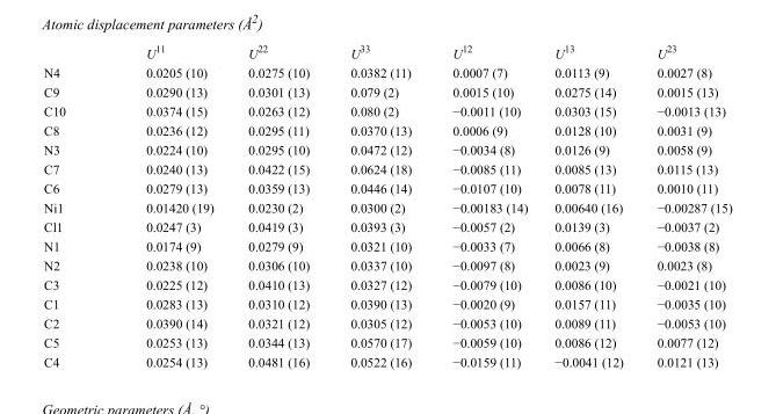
<table><thead><tr><td></td><td>U<sup>11</sup></td><td>U<sup>22</sup></td><td>U<sup>33</sup></td><td>U<sup>12</sup></td><td>U<sup>13</sup></td><td>U<sup>23</sup></td></tr></thead><tbody><tr><td>N4</td><td>0.0205 (10)</td><td>0.0275 (10)</td><td>0.0382 (11)</td><td>0.0007 (7)</td><td>0.0113 (9)</td><td>0.0027 (8)</td></tr><tr><td>C9</td><td>0.0290 (13)</td><td>0.0301 (13)</td><td>0.079 (2)</td><td>0.0015 (10)</td><td>0.0275 (14)</td><td>0.0015 (13)</td></tr><tr><td>C10</td><td>0.0374 (15)</td><td>0.0263 (12)</td><td>0.080 (2)</td><td>−0.0011 (10)</td><td>0.0303 (15)</td><td>−0.0013 (13)</td></tr><tr><td>C8</td><td>0.0236 (12)</td><td>0.0295 (11)</td><td>0.0370 (13)</td><td>0.0006 (9)</td><td>0.0128 (10)</td><td>0.0031 (9)</td></tr><tr><td>N3</td><td>0.0224 (10)</td><td>0.0295 (10)</td><td>0.0472 (12)</td><td>−0.0034 (8)</td><td>0.0126 (9)</td><td>0.0058 (9)</td></tr><tr><td>C7</td><td>0.0240 (13)</td><td>0.0422 (15)</td><td>0.0624 (18)</td><td>−0.0085 (11)</td><td>0.0085 (13)</td><td>0.0115 (13)</td></tr><tr><td>C6</td><td>0.0279 (13)</td><td>0.0359 (13)</td><td>0.0446 (14)</td><td>−0.0107 (10)</td><td>0.0078 (11)</td><td>0.0010 (11)</td></tr><tr><td>Ni1</td><td>0.01420 (19)</td><td>0.0230 (2)</td><td>0.0300 (2)</td><td>−0.00183 (14)</td><td>0.00640 (16)</td><td>−0.00287 (15)</td></tr><tr><td>Cl1</td><td>0.0247 (3)</td><td>0.0419 (3)</td><td>0.0393 (3)</td><td>−0.0057 (2)</td><td>0.0139 (3)</td><td>−0.0037 (2)</td></tr><tr><td>N1</td><td>0.0174 (9)</td><td>0.0279 (9)</td><td>0.0321 (10)</td><td>−0.0033 (7)</td><td>0.0066 (8)</td><td>−0.0038 (8)</td></tr><tr><td>N2</td><td>0.0238 (10)</td><td>0.0306 (10)</td><td>0.0337 (10)</td><td>−0.0097 (8)</td><td>0.0023 (9)</td><td>0.0023 (8)</td></tr><tr><td>C3</td><td>0.0225 (12)</td><td>0.0410 (13)</td><td>0.0327 (12)</td><td>−0.0079 (10)</td><td>0.0086 (10)</td><td>−0.0021 (10)</td></tr><tr><td>C1</td><td>0.0283 (13)</td><td>0.0310 (12)</td><td>0.0390 (13)</td><td>−0.0020 (9)</td><td>0.0157 (11)</td><td>−0.0035 (10)</td></tr><tr><td>C2</td><td>0.0390 (14)</td><td>0.0321 (12)</td><td>0.0305 (12)</td><td>−0.0053 (10)</td><td>0.0089 (11)</td><td>−0.0053 (10)</td></tr><tr><td>C5</td><td>0.0253 (13)</td><td>0.0344 (13)</td><td>0.0570 (17)</td><td>−0.0059 (10)</td><td>0.0086 (12)</td><td>0.0077 (12)</td></tr><tr><td>C4</td><td>0.0254 (13)</td><td>0.0481 (16)</td><td>0.0522 (16)</td><td>−0.0159 (11)</td><td>−0.0041 (12)</td><td>0.0121 (13)</td></tr></tbody></table>